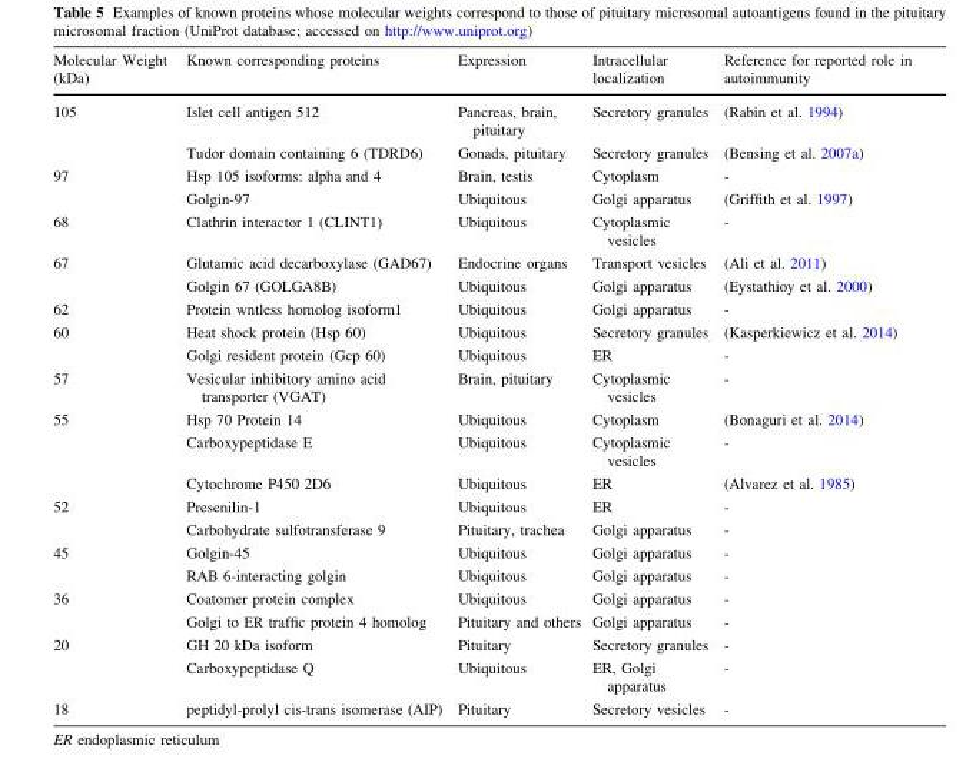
<table><thead><tr><td>Molecular Weight (kDa)</td><td>Known corresponding proteins</td><td>Expression</td><td>Intracellular localization</td><td>Reference for reported role in autoimmunity</td></tr></thead><tbody><tr><td rowspan="2">105</td><td>Islet cell antigen 512</td><td>Pancreas, brain, pituitary</td><td>Secretory granules</td><td>(Rabin et al. 1994)</td></tr><tr><td>Tudor domain containing 6 (TDRD6)</td><td>Gonads, pituitary</td><td>Secretory granules</td><td>(Bensing et al. 2007a)</td></tr><tr><td rowspan="2">97</td><td>Hsp 105 isoforms: alpha and 4</td><td>Brain, testis</td><td>Cytoplasm</td><td>-</td></tr><tr><td>Golgin-97</td><td>Ubiquitous</td><td>Golgi apparatus</td><td>(Griffith et al. 1997)</td></tr><tr><td>68</td><td>Clathrin interactor 1 (CLINT1)</td><td>Ubiquitous</td><td>Cytoplasmic vesicles</td><td>-</td></tr><tr><td rowspan="2">67</td><td>Glutamic acid decarboxylase (GAD67)</td><td>Endocrine organs</td><td>Transport vesicles</td><td>(Ali et al. 2011)</td></tr><tr><td>Golgin 67 (GOLGA8B)</td><td>Ubiquitous</td><td>Golgi apparatus</td><td>(Eystathioy et al. 2000)</td></tr><tr><td>62</td><td>Protein wntless homolog isoform1</td><td>Ubiquitous</td><td>Golgi apparatus</td><td>-</td></tr><tr><td rowspan="2">60</td><td>Heat shock protein (Hsp 60)</td><td>Ubiquitous</td><td>Secretory granules</td><td>(Kasperkiewicz et al. 2014)</td></tr><tr><td>Golgi resident protein (Gcp 60)</td><td>Ubiquitous</td><td>ER</td><td>-</td></tr><tr><td>57</td><td>Vesicular inhibitory amino acid transporter (VGAT)</td><td>Brain, pituitary</td><td>Cytoplasmic vesicles</td><td>-</td></tr><tr><td rowspan="3">55</td><td>Hsp 70 Protein 14</td><td>Ubiquitous</td><td>Cytoplasm</td><td>(Bonaguri et al. 2014)</td></tr><tr><td>Carboxypeptidase E</td><td>Ubiquitous</td><td>Cytoplasmic vesicles</td><td>-</td></tr><tr><td>Cytochrome P450 2D6</td><td>Ubiquitous</td><td>ER</td><td>(Alvarez et al. 1985)</td></tr><tr><td rowspan="2">52</td><td>Presenilin-1</td><td>Ubiquitous</td><td>ER</td><td>-</td></tr><tr><td>Carbohydrate sulfotransferase 9</td><td>Pituitary, trachea</td><td>Golgi apparatus</td><td>-</td></tr><tr><td rowspan="2">45</td><td>Golgin-45</td><td>Ubiquitous</td><td>Golgi apparatus</td><td>-</td></tr><tr><td>RAB 6-interacting golgin</td><td>Ubiquitous</td><td>Golgi apparatus</td><td>-</td></tr><tr><td rowspan="2">36</td><td>Coatomer protein complex</td><td>Ubiquitous</td><td>Golgi apparatus</td><td>-</td></tr><tr><td>Golgi to ER traffic protein 4 homolog</td><td>Pituitary and others</td><td>Golgi apparatus</td><td>-</td></tr><tr><td rowspan="2">20</td><td>GH 20 kDa isoform</td><td>Pituitary</td><td>Secretory granules</td><td>-</td></tr><tr><td>Carboxypeptidase Q</td><td>Ubiquitous</td><td>ER, Golgi apparatus</td><td>-</td></tr><tr><td>18</td><td>peptidyl-prolyl cis-trans isomerase (AIP)</td><td>Pituitary</td><td>Secretory vesicles</td><td>-</td></tr></tbody></table>